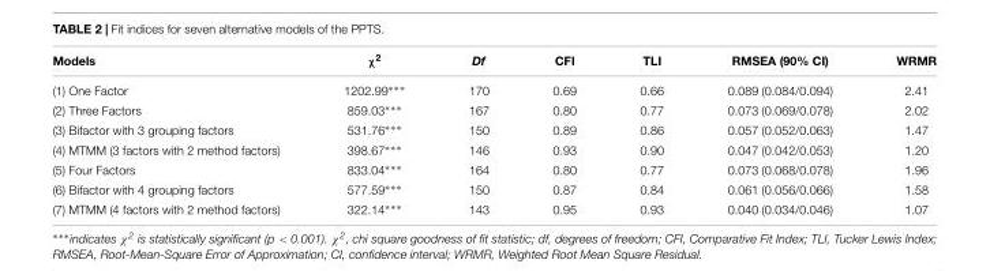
<table><thead><tr><td>Models</td><td>χ<sup>2</sup></td><td>Df</td><td>CFI</td><td>TLI</td><td>RMSEA (90% CI)</td><td>WRMR</td></tr></thead><tbody><tr><td>(1) One Factor</td><td>1202.99∗∗∗</td><td>170</td><td>0.69</td><td>0.66</td><td>0.089 (0.084/0.094)</td><td>2.41</td></tr><tr><td>(2) Three Factors</td><td>859.03∗∗∗</td><td>167</td><td>0.80</td><td>0.77</td><td>0.073 (0.069/0.078)</td><td>2.02</td></tr><tr><td>(3) Bifactor with 3 grouping factors</td><td>531.76∗∗∗</td><td>150</td><td>0.89</td><td>0.86</td><td>0.057 (0.052/0.063)</td><td>1.47</td></tr><tr><td>(4) MTMM (3 factors with 2 method factors)</td><td>398.67∗∗∗</td><td>146</td><td>0.93</td><td>0.90</td><td>0.047 (0.042/0.053)</td><td>1.20</td></tr><tr><td>(5) Four Factors</td><td>833.04∗∗∗</td><td>164</td><td>0.80</td><td>0.77</td><td>0.073 (0.068/0.078)</td><td>1.96</td></tr><tr><td>(6) Bifactor with 4 grouping factors</td><td>577.59∗∗∗</td><td>150</td><td>0.87</td><td>0.84</td><td>0.061 (0.056/0.066)</td><td>1.58</td></tr><tr><td>(7) MTMM (4 factors with 2 method factors)</td><td>322.14∗∗∗</td><td>143</td><td>0.95</td><td>0.93</td><td>0.040 (0.034/0.046)</td><td>1.07</td></tr></tbody></table>